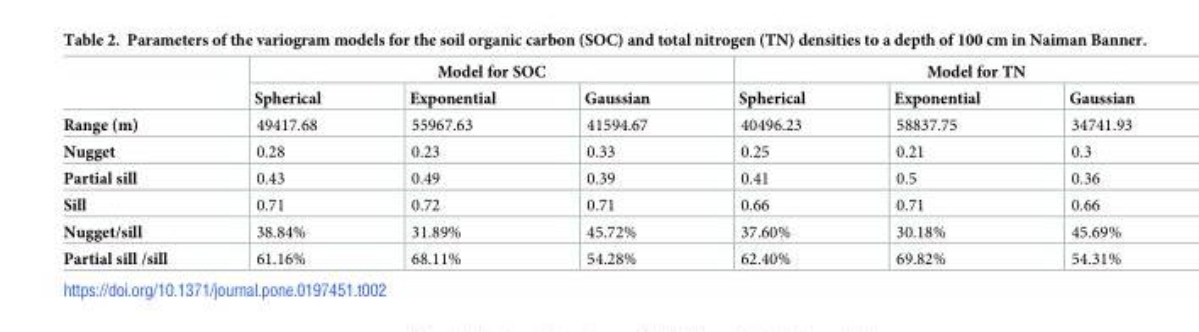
<table><thead><tr><td rowspan="2"></td><td colspan="3">Model for SOC</td><td colspan="3">Model for TN</td></tr><tr><td>Spherical</td><td>Exponential</td><td>Gaussian</td><td>Spherical</td><td>Exponential</td><td>Gaussian</td></tr></thead><tbody><tr><td>Range (m)</td><td>49417.68</td><td>55967.63</td><td>41594.67</td><td>40496.23</td><td>58837.75</td><td>34741.93</td></tr><tr><td>Nugget</td><td>0.28</td><td>0.23</td><td>0.33</td><td>0.25</td><td>0.21</td><td>0.3</td></tr><tr><td>Partial sill</td><td>0.43</td><td>0.49</td><td>0.39</td><td>0.41</td><td>0.5</td><td>0.36</td></tr><tr><td>Sill</td><td>0.71</td><td>0.72</td><td>0.71</td><td>0.66</td><td>0.71</td><td>0.66</td></tr><tr><td>Nugget/sill</td><td>38.84%</td><td>31.89%</td><td>45.72%</td><td>37.60%</td><td>30.18%</td><td>45.69%</td></tr><tr><td>Partial sill /sill</td><td>61.16%</td><td>68.11%</td><td>54.28%</td><td>62.40%</td><td>69.82%</td><td>54.31%</td></tr></tbody></table>